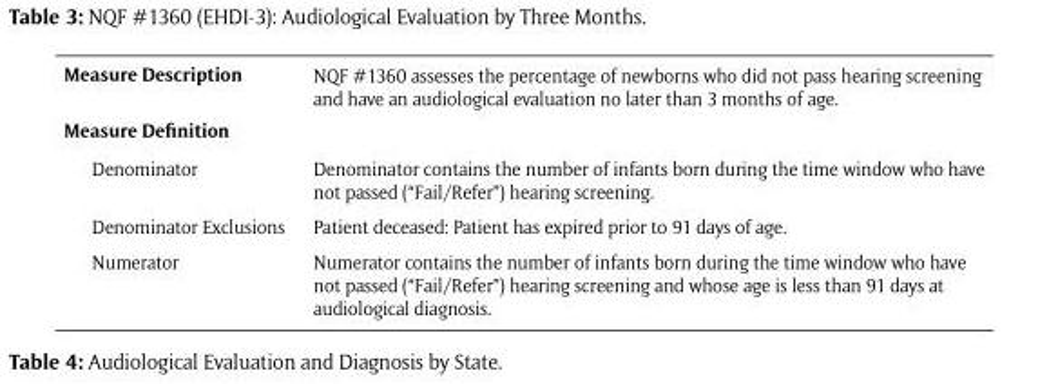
<table><tbody><tr><td>Measure Description</td><td>NQF #1360 assesses the percentage of newborns who did not pass hearing screening and have an audiological evaluation no later than 3 months of age.</td></tr><tr><td colspan="2">Measure Definition</td></tr><tr><td>Denominator</td><td>Denominator contains the number of infants born during the time window who have not passed (“Fail/Refer”) hearing screening.</td></tr><tr><td>Denominator Exclusions</td><td>Patient deceased: Patient has expired prior to 91 days of age.</td></tr><tr><td>Numerator</td><td>Numerator contains the number of infants born during the time window who have not passed (“Fail/Refer”) hearing screening and whose age is less than 91 days at audiological diagnosis.</td></tr></tbody></table>